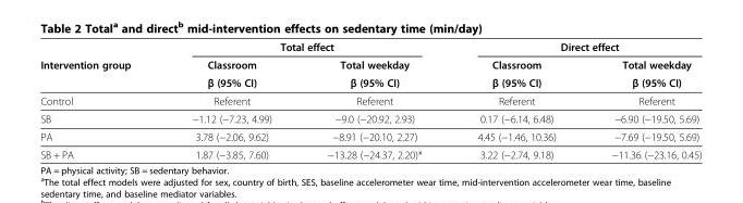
<table><thead><tr><td rowspan="3">Intervention group</td><td colspan="2">Total effect</td><td colspan="2">Direct effect</td></tr><tr><td rowspan="2">Classroom β (95% CI)</td><td rowspan="2">Total weekday β (95% CI)</td><td rowspan="2">Classroom β (95% CI)</td><td rowspan="2">Total weekday β (95% CI)</td></tr><tr></tr></thead><tbody><tr><td>Control</td><td>Referent</td><td>Referent</td><td>Referent</td><td>Referent</td></tr><tr><td>SB</td><td>−1.12 (−7.23, 4.99)</td><td>−9.0 (−20.92, 2.93)</td><td>0.17 (−6.14, 6.48)</td><td>−6.90 (−19.50, 5.69)</td></tr><tr><td>PA</td><td>3.78 (−2.06, 9.62)</td><td>−8.91 (−20.10, 2.27)</td><td>4.45 (−1.46, 10.36)</td><td>−7.69 (−19.50, 5.69)</td></tr><tr><td>SB + PA</td><td>1.87 (−3.85, 7.60)</td><td>−13.28 (−24.37, 2.20)*</td><td>3.22 (−2.74, 9.18)</td><td>−11.36 (−23.16, 0.45)</td></tr></tbody></table>